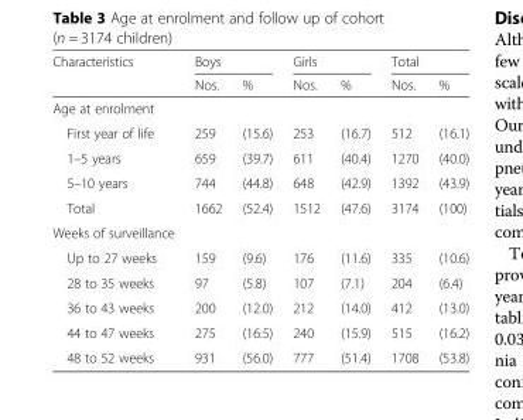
<table><thead><tr><td rowspan="2">Characteristics</td><td colspan="2">Boys</td><td colspan="2">Girls</td><td colspan="2">Total</td></tr><tr><td>Nos.</td><td>%</td><td>Nos.</td><td>%</td><td>Nos.</td><td>%</td></tr></thead><tbody><tr><td colspan="7">Age at enrolment</td></tr><tr><td>First year of life</td><td>259</td><td>(15.6)</td><td>253</td><td>(16.7)</td><td>512</td><td>(16.1)</td></tr><tr><td>1–5 years</td><td>659</td><td>(39.7)</td><td>611</td><td>(40.4)</td><td>1270</td><td>(40.0)</td></tr><tr><td>5–10 years</td><td>744</td><td>(44.8)</td><td>648</td><td>(42.9)</td><td>1392</td><td>(43.9)</td></tr><tr><td>Total</td><td>1662</td><td>(52.4)</td><td>1512</td><td>(47.6)</td><td>3174</td><td>(100)</td></tr><tr><td colspan="7">Weeks of surveillance</td></tr><tr><td>Up to 27 weeks</td><td>159</td><td>(9.6)</td><td>176</td><td>(11.6)</td><td>335</td><td>(10.6)</td></tr><tr><td>28 to 35 weeks</td><td>97</td><td>(5.8)</td><td>107</td><td>(7.1)</td><td>204</td><td>(6.4)</td></tr><tr><td>36 to 43 weeks</td><td>200</td><td>(12.0)</td><td>212</td><td>(14.0)</td><td>412</td><td>(13.0)</td></tr><tr><td>44 to 47 weeks</td><td>275</td><td>(16.5)</td><td>240</td><td>(15.9)</td><td>515</td><td>(16.2)</td></tr><tr><td>48 to 52 weeks</td><td>931</td><td>(56.0)</td><td>777</td><td>(51.4)</td><td>1708</td><td>(53.8)</td></tr></tbody></table>